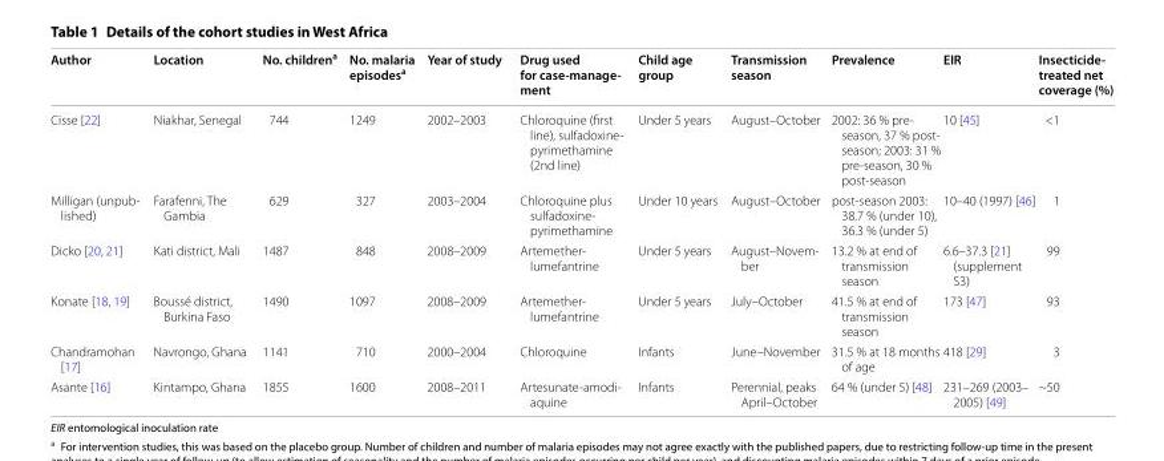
<table><thead><tr><td>Author</td><td>Location</td><td>No. children<sup>a</sup></td><td>No. malaria episodes<sup>a</sup></td><td>Year of study</td><td>Drug used for case-manage- ment</td><td>Child age group</td><td>Transmission season</td><td>Prevalence</td><td>EIR</td><td>Insecticide- treated net coverage (%)</td></tr></thead><tbody><tr><td>Cisse [22]</td><td>Niakhar, Senegal</td><td>744</td><td>1249</td><td>2002–2003</td><td>Chloroquine (first line), sulfadoxine‑ pyrimethamine (2nd line)</td><td>Under 5 years</td><td>August–October</td><td>2002: 36 % pre‑ season, 37 % post‑ season; 2003: 31 % pre‑season, 30 % post‑season</td><td>10 [45]</td><td>&lt;1</td></tr><tr><td>Milligan (unpub‑ lished)</td><td>Farafenni, The Gambia</td><td>629</td><td>327</td><td>2003–2004</td><td>Chloroquine plus sulfadoxine‑ pyrimethamine</td><td>Under 10 years</td><td>August–October</td><td>post‑season 2003: 38.7 % (under 10), 36.3 % (under 5)</td><td>10–40 (1997) [46]</td><td>1</td></tr><tr><td>Dicko [20, 21]</td><td>Kati district, Mali</td><td>1487</td><td>848</td><td>2008–2009</td><td>Artemether‑ lumefantrine</td><td>Under 5 years</td><td>August–Novem‑ ber</td><td>13.2 % at end of transmission season</td><td>6.6–37.3 [21] (supplement S3)</td><td>99</td></tr><tr><td>Konate [18, 19]</td><td>Boussé district, Burkina Faso</td><td>1490</td><td>1097</td><td>2008–2009</td><td>Artemether‑ lumefantrine</td><td>Under 5 years</td><td>July–October</td><td>41.5 % at end of transmission season</td><td>173 [47]</td><td>93</td></tr><tr><td>Chandramohan [17]</td><td>Navrongo, Ghana</td><td>1141</td><td>710</td><td>2000–2004</td><td>Chloroquine</td><td>Infants</td><td>June–November</td><td>31.5 % at 18 months of age</td><td>418 [29]</td><td>3</td></tr><tr><td>Asante [16]</td><td>Kintampo, Ghana</td><td>1855</td><td>1600</td><td>2008–2011</td><td>Artesunate‑amodi‑ aquine</td><td>Infants</td><td>Perennial, peaks April–October</td><td>64 % (under 5) [48]</td><td>231–269 (2003– 2005) [49]</td><td>~50</td></tr></tbody></table>